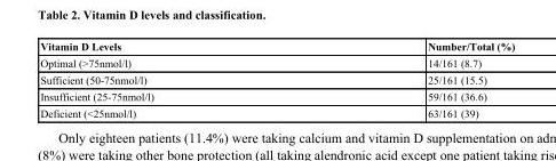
<table><thead><tr><td>Vitamin D Levels</td><td>Number/Total (%)</td></tr></thead><tbody><tr><td>Optimal (&gt;75nmol/l)</td><td>14/161 (8.7)</td></tr><tr><td>Sufficient (50-75nmol/l)</td><td>25/161 (15.5)</td></tr><tr><td>Insufficient (25-75nmol/l)</td><td>59/161 (36.6)</td></tr><tr><td>Deficient (&lt;25nmol/l)</td><td>63/161 (39)</td></tr></tbody></table>